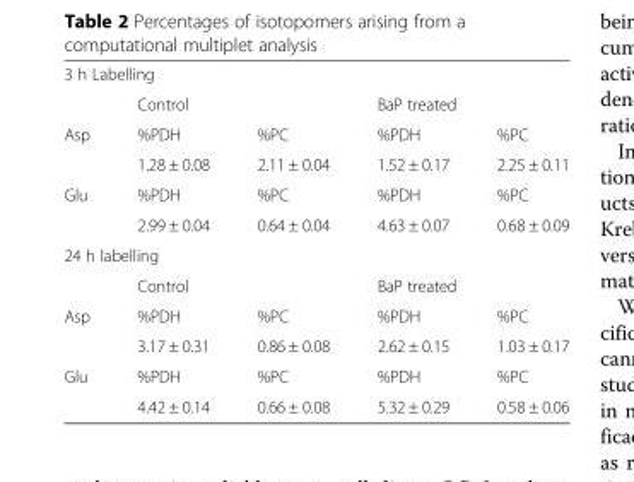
<table><tbody><tr><td colspan="5">3 h Labelling</td></tr><tr><td></td><td colspan="2">Control</td><td colspan="2">BaP treated</td></tr><tr><td rowspan="2">Asp</td><td>%PDH</td><td>%PC</td><td>%PDH</td><td>%PC</td></tr><tr><td>1.28 ± 0.08</td><td>2.11 ± 0.04</td><td>1.52 ± 0.17</td><td>2.25 ± 0.11</td></tr><tr><td rowspan="2">Glu</td><td>%PDH</td><td>%PC</td><td>%PDH</td><td>%PC</td></tr><tr><td>2.99 ± 0.04</td><td>0.64 ± 0.04</td><td>4.63 ± 0.07</td><td>0.68 ± 0.09</td></tr><tr><td colspan="5">24 h labelling</td></tr><tr><td></td><td colspan="2">Control</td><td colspan="2">BaP treated</td></tr><tr><td rowspan="2">Asp</td><td>%PDH</td><td>%PC</td><td>%PDH</td><td>%PC</td></tr><tr><td>3.17 ± 0.31</td><td>0.86 ± 0.08</td><td>2.62 ± 0.15</td><td>1.03 ± 0.17</td></tr><tr><td rowspan="2">Glu</td><td>%PDH</td><td>%PC</td><td>%PDH</td><td>%PC</td></tr><tr><td>4.42 ± 0.14</td><td>0.66 ± 0.08</td><td>5.32 ± 0.29</td><td>0.58 ± 0.06</td></tr></tbody></table>